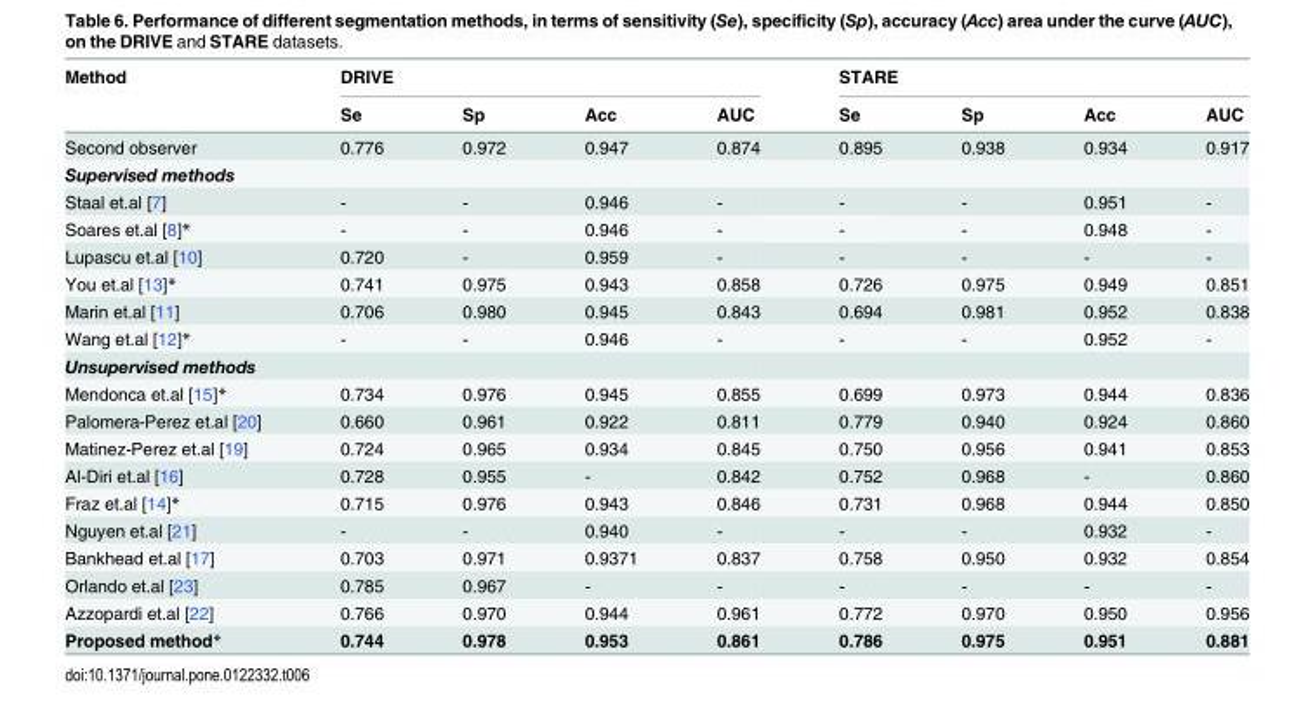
<table><thead><tr><td rowspan="2">Method</td><td colspan="4">DRIVE</td><td colspan="4">STARE</td></tr><tr><td>Se</td><td>Sp</td><td>Acc</td><td>AUC</td><td>Se</td><td>Sp</td><td>Acc</td><td>AUC</td></tr></thead><tbody><tr><td>Second observer</td><td>0.776</td><td>0.972</td><td>0.947</td><td>0.874</td><td>0.895</td><td>0.938</td><td>0.934</td><td>0.917</td></tr><tr><td colspan="9">Supervised methods</td></tr><tr><td>Staal et.al [7]</td><td>-</td><td>-</td><td>0.946</td><td>-</td><td>-</td><td>-</td><td>0.951</td><td>-</td></tr><tr><td>Soares et.al [8]*</td><td>-</td><td>-</td><td>0.946</td><td>-</td><td>-</td><td>-</td><td>0.948</td><td>-</td></tr><tr><td>Lupascu et.al [10]</td><td>0.720</td><td>-</td><td>0.959</td><td>-</td><td>-</td><td>-</td><td>-</td><td>-</td></tr><tr><td>You et.al [13]*</td><td>0.741</td><td>0.975</td><td>0.943</td><td>0.858</td><td>0.726</td><td>0.975</td><td>0.949</td><td>0.851</td></tr><tr><td>Marin et.al [11]</td><td>0.706</td><td>0.980</td><td>0.945</td><td>0.843</td><td>0.694</td><td>0.981</td><td>0.952</td><td>0.838</td></tr><tr><td>Wang et.al [12]*</td><td>-</td><td>-</td><td>0.946</td><td>-</td><td>-</td><td>-</td><td>0.952</td><td>-</td></tr><tr><td colspan="9">Unsupervised methods</td></tr><tr><td>Mendonca et.al [15]*</td><td>0.734</td><td>0.976</td><td>0.945</td><td>0.855</td><td>0.699</td><td>0.973</td><td>0.944</td><td>0.836</td></tr><tr><td>Palomera-Perez et.al [20]</td><td>0.660</td><td>0.961</td><td>0.922</td><td>0.811</td><td>0.779</td><td>0.940</td><td>0.924</td><td>0.860</td></tr><tr><td>Matinez-Perez et.al [19]</td><td>0.724</td><td>0.965</td><td>0.934</td><td>0.845</td><td>0.750</td><td>0.956</td><td>0.941</td><td>0.853</td></tr><tr><td>Al-Diri et.al [16]</td><td>0.728</td><td>0.955</td><td>-</td><td>0.842</td><td>0.752</td><td>0.968</td><td>-</td><td>0.860</td></tr><tr><td>Fraz et.al [14]*</td><td>0.715</td><td>0.976</td><td>0.943</td><td>0.846</td><td>0.731</td><td>0.968</td><td>0.944</td><td>0.850</td></tr><tr><td>Nguyen et.al [21]</td><td>-</td><td>-</td><td>0.940</td><td>-</td><td>-</td><td>-</td><td>0.932</td><td>-</td></tr><tr><td>Bankhead et.al [17]</td><td>0.703</td><td>0.971</td><td>0.9371</td><td>0.837</td><td>0.758</td><td>0.950</td><td>0.932</td><td>0.854</td></tr><tr><td>Orlando et.al [23]</td><td>0.785</td><td>0.967</td><td>-</td><td>-</td><td>-</td><td>-</td><td>-</td><td>-</td></tr><tr><td>Azzopardi et.al [22]</td><td>0.766</td><td>0.970</td><td>0.944</td><td>0.961</td><td>0.772</td><td>0.970</td><td>0.950</td><td>0.956</td></tr><tr><td>Proposed method*</td><td>0.744</td><td>0.978</td><td>0.953</td><td>0.861</td><td>0.786</td><td>0.975</td><td>0.951</td><td>0.881</td></tr></tbody></table>